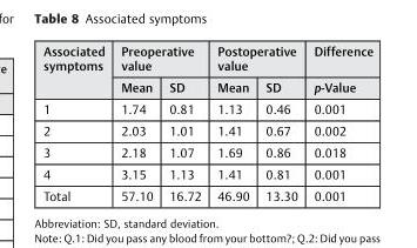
<table><thead><tr><td rowspan="2">Associated symptoms</td><td colspan="2">Preoperative value</td><td colspan="2">Postoperative value</td><td rowspan="2">Difference p-Value</td></tr><tr><td>Mean</td><td>SD</td><td>Mean</td><td>SD</td></tr></thead><tbody><tr><td>1</td><td>1.74</td><td>0.81</td><td>1.13</td><td>0.46</td><td>0.001</td></tr><tr><td>2</td><td>2.03</td><td>1.01</td><td>1.41</td><td>0.67</td><td>0.002</td></tr><tr><td>3</td><td>2.18</td><td>1.07</td><td>1.69</td><td>0.86</td><td>0.018</td></tr><tr><td>4</td><td>3.15</td><td>1.13</td><td>1.41</td><td>0.81</td><td>0.001</td></tr><tr><td>Total</td><td>57.10</td><td>16.72</td><td>46.90</td><td>13.30</td><td>0.001</td></tr></tbody></table>